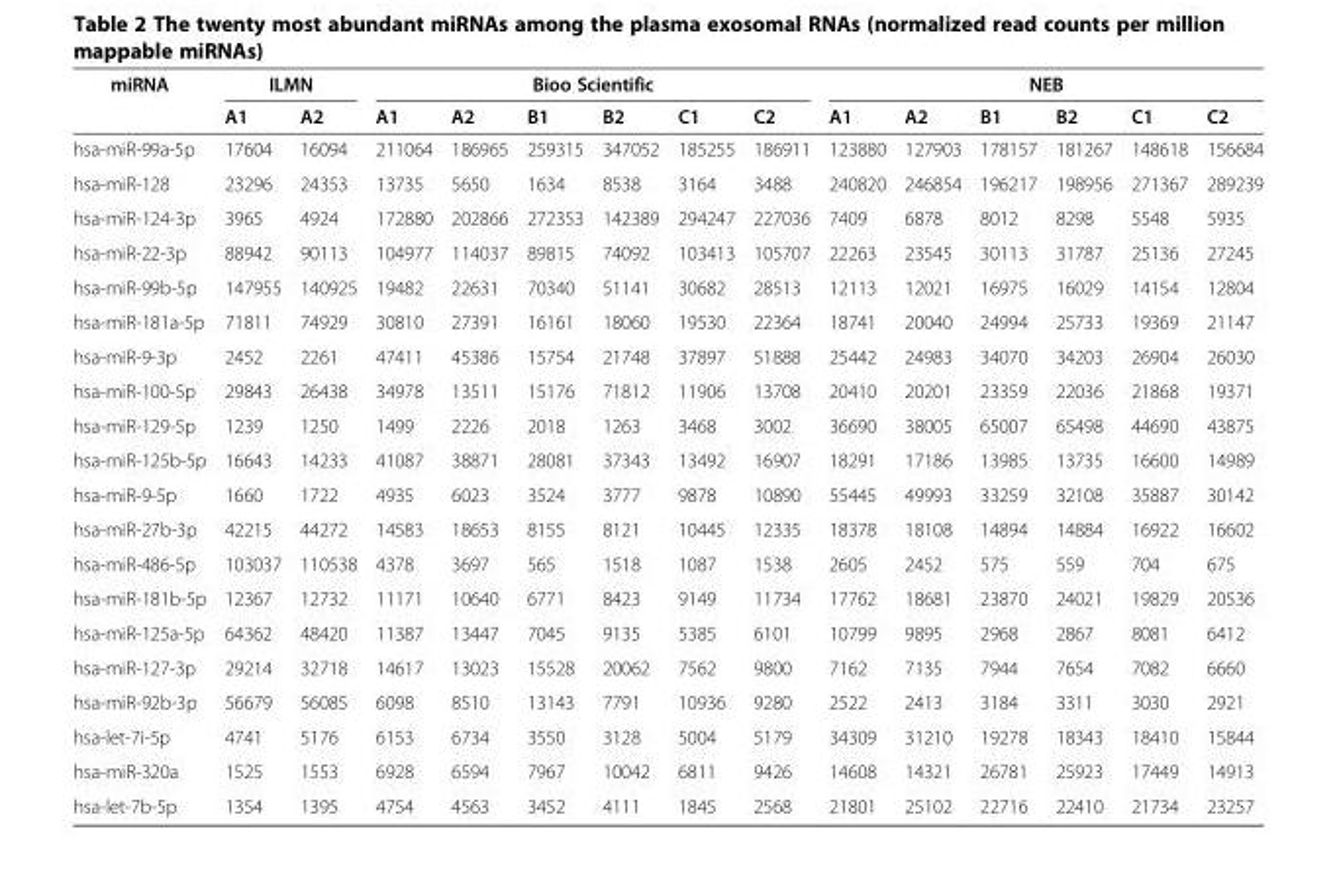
<table><thead><tr><td rowspan="2">miRNA</td><td colspan="2">ILMN</td><td colspan="6">Bioo Scientific</td><td colspan="6">NEB</td></tr><tr><td>A1</td><td>A2</td><td>A1</td><td>A2</td><td>B1</td><td>B2</td><td>C1</td><td>C2</td><td>A1</td><td>A2</td><td>B1</td><td>B2</td><td>C1</td><td>C2</td></tr></thead><tbody><tr><td>hsa-miR-99a-5p</td><td>17604</td><td>16094</td><td>211064</td><td>186965</td><td>259315</td><td>347052</td><td>185255</td><td>186911</td><td>123880</td><td>127903</td><td>178157</td><td>181267</td><td>148618</td><td>156684</td></tr><tr><td>hsa-miR-128</td><td>23296</td><td>24353</td><td>13735</td><td>5650</td><td>1634</td><td>8538</td><td>3164</td><td>3488</td><td>240820</td><td>246854</td><td>196217</td><td>198956</td><td>271367</td><td>289239</td></tr><tr><td>hsa-miR-124-3p</td><td>3965</td><td>4924</td><td>172880</td><td>202866</td><td>272353</td><td>142389</td><td>294247</td><td>227036</td><td>7409</td><td>6878</td><td>8012</td><td>8298</td><td>5548</td><td>5935</td></tr><tr><td>hsa-miR-22-3p</td><td>88942</td><td>90113</td><td>104977</td><td>114037</td><td>89815</td><td>74092</td><td>103413</td><td>105707</td><td>22263</td><td>23545</td><td>30113</td><td>31787</td><td>25136</td><td>27245</td></tr><tr><td>hsa-miR-99b-5p</td><td>147955</td><td>140925</td><td>19482</td><td>22631</td><td>70340</td><td>51141</td><td>30682</td><td>28513</td><td>12113</td><td>12021</td><td>16975</td><td>16029</td><td>14154</td><td>12804</td></tr><tr><td>hsa-miR-181a-5p</td><td>71811</td><td>74929</td><td>30810</td><td>27391</td><td>16161</td><td>18060</td><td>19530</td><td>22364</td><td>18741</td><td>20040</td><td>24994</td><td>25733</td><td>19369</td><td>21147</td></tr><tr><td>hsa-miR-9-3p</td><td>2452</td><td>2261</td><td>47411</td><td>45386</td><td>15754</td><td>21748</td><td>37897</td><td>51888</td><td>25442</td><td>24983</td><td>34070</td><td>34203</td><td>26904</td><td>26030</td></tr><tr><td>hsa-miR-100-5p</td><td>29843</td><td>26438</td><td>34978</td><td>13511</td><td>15176</td><td>71812</td><td>11906</td><td>13708</td><td>20410</td><td>20201</td><td>23359</td><td>22036</td><td>21868</td><td>19371</td></tr><tr><td>hsa-miR-129-5p</td><td>1239</td><td>1250</td><td>1499</td><td>2226</td><td>2018</td><td>1263</td><td>3468</td><td>3002</td><td>36690</td><td>38005</td><td>65007</td><td>65498</td><td>44690</td><td>43875</td></tr><tr><td>hsa-miR-125b-5p</td><td>16643</td><td>14233</td><td>41087</td><td>38871</td><td>28081</td><td>37343</td><td>13492</td><td>16907</td><td>18291</td><td>17186</td><td>13985</td><td>13735</td><td>16600</td><td>14989</td></tr><tr><td>hsa-miR-9-5p</td><td>1660</td><td>1722</td><td>4935</td><td>6023</td><td>3524</td><td>3777</td><td>9878</td><td>10890</td><td>55445</td><td>49993</td><td>33259</td><td>32108</td><td>35887</td><td>30142</td></tr><tr><td>hsa-miR-27b-3p</td><td>42215</td><td>44272</td><td>14583</td><td>18653</td><td>8155</td><td>8121</td><td>10445</td><td>12335</td><td>18378</td><td>18108</td><td>14894</td><td>14884</td><td>16922</td><td>16602</td></tr><tr><td>hsa-miR-486-5p</td><td>103037</td><td>110538</td><td>4378</td><td>3697</td><td>565</td><td>1518</td><td>1087</td><td>1538</td><td>2605</td><td>2452</td><td>575</td><td>559</td><td>704</td><td>675</td></tr><tr><td>hsa-miR-181b-5p</td><td>12367</td><td>12732</td><td>11171</td><td>10640</td><td>6771</td><td>8423</td><td>9149</td><td>11734</td><td>17762</td><td>18681</td><td>23870</td><td>24021</td><td>19829</td><td>20536</td></tr><tr><td>hsa-miR-125a-5p</td><td>64362</td><td>48420</td><td>11387</td><td>13447</td><td>7045</td><td>9135</td><td>5385</td><td>6101</td><td>10799</td><td>9895</td><td>2968</td><td>2867</td><td>8081</td><td>6412</td></tr><tr><td>hsa-miR-127-3p</td><td>29214</td><td>32718</td><td>14617</td><td>13023</td><td>15528</td><td>20062</td><td>7562</td><td>9800</td><td>7162</td><td>7135</td><td>7944</td><td>7654</td><td>7082</td><td>6660</td></tr><tr><td>hsa-miR-92b-3p</td><td>56679</td><td>56085</td><td>6098</td><td>8510</td><td>13143</td><td>7791</td><td>10936</td><td>9280</td><td>2522</td><td>2413</td><td>3184</td><td>3311</td><td>3030</td><td>2921</td></tr><tr><td>hsa-let-7i-5p</td><td>4741</td><td>5176</td><td>6153</td><td>6734</td><td>3550</td><td>3128</td><td>5004</td><td>5179</td><td>34309</td><td>31210</td><td>19278</td><td>18343</td><td>18410</td><td>15844</td></tr><tr><td>hsa-miR-320a</td><td>1525</td><td>1553</td><td>6928</td><td>6594</td><td>7967</td><td>10042</td><td>6811</td><td>9426</td><td>14608</td><td>14321</td><td>26781</td><td>25923</td><td>17449</td><td>14913</td></tr><tr><td>hsa-let-7b-5p</td><td>1354</td><td>1395</td><td>4754</td><td>4563</td><td>3452</td><td>4111</td><td>1845</td><td>2568</td><td>21801</td><td>25102</td><td>22716</td><td>22410</td><td>21734</td><td>23257</td></tr></tbody></table>